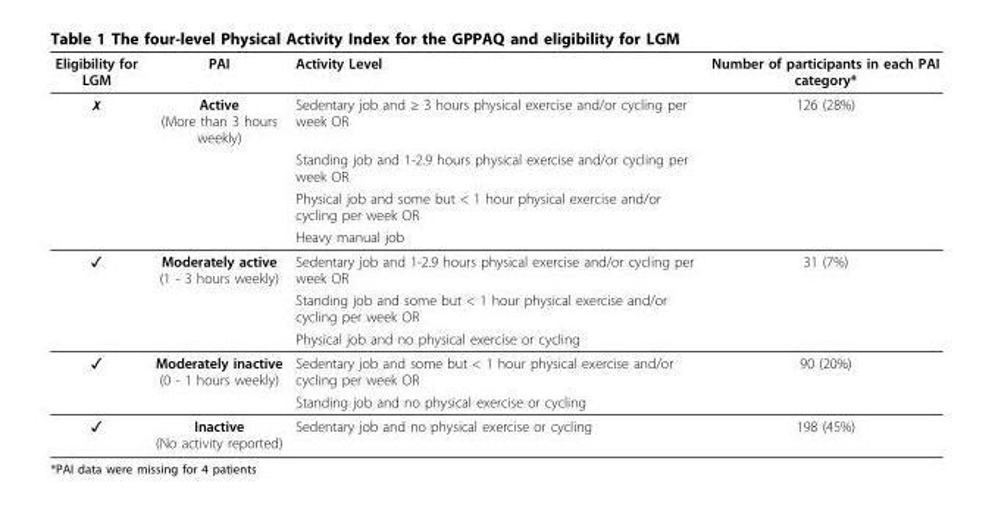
<table><thead><tr><td>Eligibility for LGM</td><td>PAI</td><td>Activity Level</td><td>Number of participants in each PAI category*</td></tr></thead><tbody><tr><td rowspan="4">✗</td><td>Active (More than 3 hours weekly)</td><td>Sedentary job and ≥ 3 hours physical exercise and/or cycling per week OR</td><td>126 (28%)</td></tr><tr><td></td><td>Standing job and 1-2.9 hours physical exercise and/or cycling per week OR</td><td></td></tr><tr><td></td><td>Physical job and some but &lt; 1 hour physical exercise and/or cycling per week OR</td><td></td></tr><tr><td></td><td>Heavy manual job</td><td></td></tr><tr><td rowspan="3">✓</td><td>Moderately active (1 - 3 hours weekly)</td><td>Sedentary job and 1-2.9 hours physical exercise and/or cycling per week OR</td><td>31 (7%)</td></tr><tr><td></td><td>Standing job and some but &lt; 1 hour physical exercise and/or cycling per week OR</td><td></td></tr><tr><td></td><td>Physical job and no physical exercise or cycling</td><td></td></tr><tr><td rowspan="2">✓</td><td>Moderately inactive (0 - 1 hours weekly)</td><td>Sedentary job and some but &lt; 1 hour physical exercise and/or cycling per week OR</td><td>90 (20%)</td></tr><tr><td></td><td>Standing job and no physical exercise or cycling</td><td></td></tr><tr><td>✓</td><td>Inactive (No activity reported)</td><td>Sedentary job and no physical exercise or cycling</td><td>198 (45%)</td></tr></tbody></table>